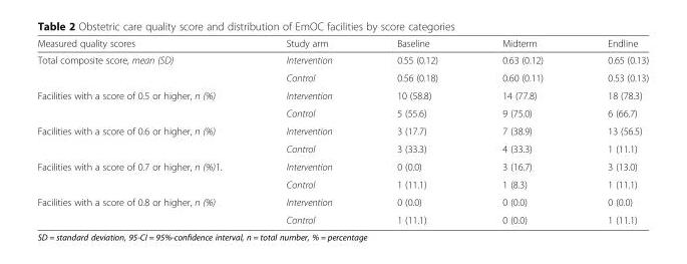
<table><thead><tr><td>Measured quality scores</td><td>Study arm</td><td>Baseline</td><td>Midterm</td><td>Endline</td></tr></thead><tbody><tr><td rowspan="2">Total composite score, mean (SD)</td><td>Intervention</td><td>0.55 (0.12)</td><td>0.63 (0.12)</td><td>0.65 (0.13)</td></tr><tr><td>Control</td><td>0.56 (0.18)</td><td>0.60 (0.11)</td><td>0.53 (0.13)</td></tr><tr><td rowspan="2">Facilities with a score of 0.5 or higher, n (%)</td><td>Intervention</td><td>10 (58.8)</td><td>14 (77.8)</td><td>18 (78.3)</td></tr><tr><td>Control</td><td>5 (55.6)</td><td>9 (75.0)</td><td>6 (66.7)</td></tr><tr><td rowspan="2">Facilities with a score of 0.6 or higher, n (%)</td><td>Intervention</td><td>3 (17.7)</td><td>7 (38.9)</td><td>13 (56.5)</td></tr><tr><td>Control</td><td>3 (33.3)</td><td>4 (33.3)</td><td>1 (11.1)</td></tr><tr><td rowspan="2">Facilities with a score of 0.7 or higher, n (%)1.</td><td>Intervention</td><td>0 (0.0)</td><td>3 (16.7)</td><td>3 (13.0)</td></tr><tr><td>Control</td><td>1 (11.1)</td><td>1 (8.3)</td><td>1 (11.1)</td></tr><tr><td rowspan="2">Facilities with a score of 0.8 or higher, n (%)</td><td>Intervention</td><td>0 (0.0)</td><td>0 (0.0)</td><td>0 (0.0)</td></tr><tr><td>Control</td><td>1 (11.1)</td><td>0 (0.0)</td><td>1 (11.1)</td></tr></tbody></table>